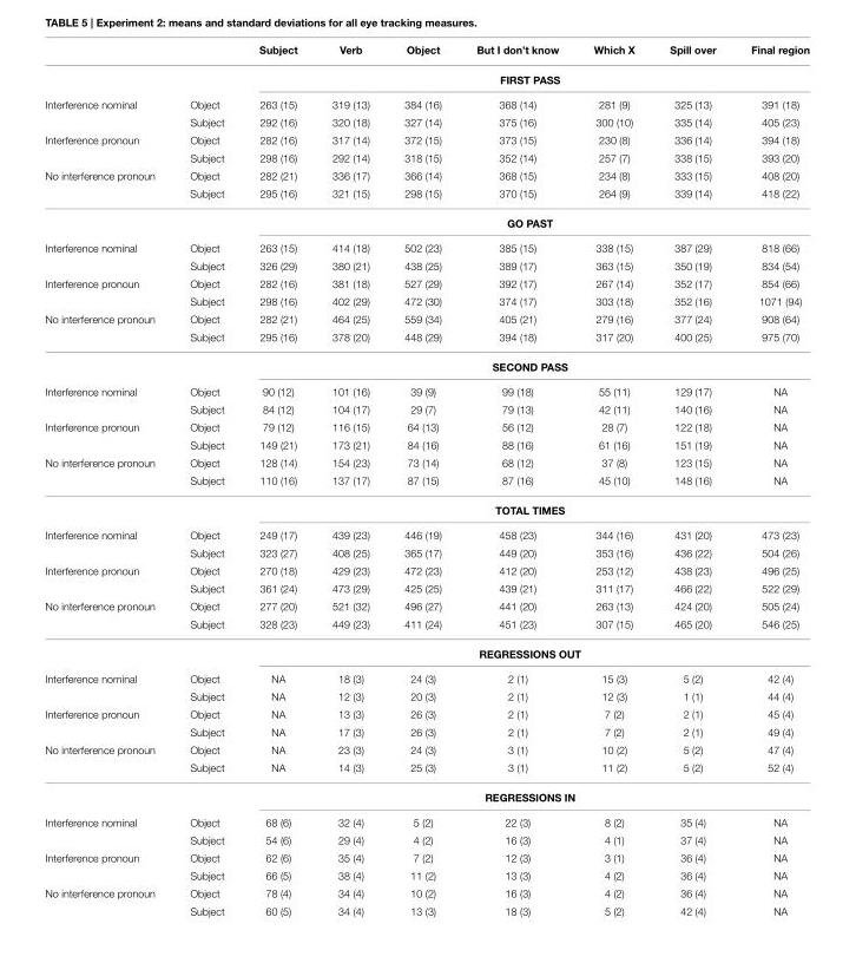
<table><thead><tr><td></td><td></td><td>Subject</td><td>Verb</td><td>Object</td><td>But I don’t know</td><td>Which X</td><td>Spill over</td><td>Final region</td></tr></thead><tbody><tr><td></td><td></td><td colspan="7">FIRST PASS</td></tr><tr><td rowspan="2">Interference nominal</td><td>Object</td><td>263 (15)</td><td>319 (13)</td><td>384 (16)</td><td>368 (14)</td><td>281 (9)</td><td>325 (13)</td><td>391 (18)</td></tr><tr><td>Subject</td><td>292 (16)</td><td>320 (18)</td><td>327 (14)</td><td>375 (16)</td><td>300 (10)</td><td>335 (14)</td><td>405 (23)</td></tr><tr><td rowspan="2">Interference pronoun</td><td>Object</td><td>282 (16)</td><td>317 (14)</td><td>372 (15)</td><td>373 (15)</td><td>230 (8)</td><td>336 (14)</td><td>394 (18)</td></tr><tr><td>Subject</td><td>298 (16)</td><td>292 (14)</td><td>318 (15)</td><td>352 (14)</td><td>257 (7)</td><td>338 (15)</td><td>393 (20)</td></tr><tr><td rowspan="3">No interference pronoun</td><td>Object</td><td>282 (21)</td><td>336 (17)</td><td>366 (14)</td><td>368 (15)</td><td>234 (8)</td><td>333 (15)</td><td>408 (20)</td></tr><tr><td>Subject</td><td>295 (16)</td><td>321 (15)</td><td>298 (15)</td><td>370 (15)</td><td>264 (9)</td><td>339 (14)</td><td>418 (22)</td></tr><tr><td></td><td colspan="7">GO PAST</td></tr><tr><td rowspan="2">Interference nominal</td><td>Object</td><td>263 (15)</td><td>414 (18)</td><td>502 (23)</td><td>385 (15)</td><td>338 (15)</td><td>387 (29)</td><td>818 (66)</td></tr><tr><td>Subject</td><td>326 (29)</td><td>380 (21)</td><td>438 (25)</td><td>389 (17)</td><td>363 (15)</td><td>350 (19)</td><td>834 (54)</td></tr><tr><td rowspan="2">Interference pronoun</td><td>Object</td><td>282 (16)</td><td>381 (18)</td><td>527 (29)</td><td>392 (17)</td><td>267 (14)</td><td>352 (17)</td><td>854 (66)</td></tr><tr><td>Subject</td><td>298 (16)</td><td>402 (29)</td><td>472 (30)</td><td>374 (17)</td><td>303 (18)</td><td>352 (16)</td><td>1071 (94)</td></tr><tr><td rowspan="3">No interference pronoun</td><td>Object</td><td>282 (21)</td><td>464 (25)</td><td>559 (34)</td><td>405 (21)</td><td>279 (16)</td><td>377 (24)</td><td>908 (64)</td></tr><tr><td>Subject</td><td>295 (16)</td><td>378 (20)</td><td>448 (29)</td><td>394 (18)</td><td>317 (20)</td><td>400 (25)</td><td>975 (70)</td></tr><tr><td></td><td colspan="7">SECOND PASS</td></tr><tr><td rowspan="2">Interference nominal</td><td>Object</td><td>90 (12)</td><td>101 (16)</td><td>39 (9)</td><td>99 (18)</td><td>55 (11)</td><td>129 (17)</td><td>NA</td></tr><tr><td>Subject</td><td>84 (12)</td><td>104 (17)</td><td>29 (7)</td><td>79 (13)</td><td>42 (11)</td><td>140 (16)</td><td>NA</td></tr><tr><td rowspan="2">Interference pronoun</td><td>Object</td><td>79 (12)</td><td>116 (15)</td><td>64 (13)</td><td>56 (12)</td><td>28 (7)</td><td>122 (18)</td><td>NA</td></tr><tr><td>Subject</td><td>149 (21)</td><td>173 (21)</td><td>84 (16)</td><td>88 (16)</td><td>61 (16)</td><td>151 (19)</td><td>NA</td></tr><tr><td rowspan="3">No interference pronoun</td><td>Object</td><td>128 (14)</td><td>154 (23)</td><td>73 (14)</td><td>68 (12)</td><td>37 (8)</td><td>123 (15)</td><td>NA</td></tr><tr><td>Subject</td><td>110 (16)</td><td>137 (17)</td><td>87 (15)</td><td>87 (16)</td><td>45 (10)</td><td>148 (16)</td><td>NA</td></tr><tr><td></td><td colspan="7">TOTAL TIMES</td></tr><tr><td rowspan="2">Interference nominal</td><td>Object</td><td>249 (17)</td><td>439 (23)</td><td>446 (19)</td><td>458 (23)</td><td>344 (16)</td><td>431 (20)</td><td>473 (23)</td></tr><tr><td>Subject</td><td>323 (27)</td><td>408 (25)</td><td>365 (17)</td><td>449 (20)</td><td>353 (16)</td><td>436 (22)</td><td>504 (26)</td></tr><tr><td rowspan="2">Interference pronoun</td><td>Object</td><td>270 (18)</td><td>429 (23)</td><td>472 (23)</td><td>412 (20)</td><td>253 (12)</td><td>438 (23)</td><td>496 (25)</td></tr><tr><td>Subject</td><td>361 (24)</td><td>473 (29)</td><td>425 (25)</td><td>439 (21)</td><td>311 (17)</td><td>466 (22)</td><td>522 (29)</td></tr><tr><td rowspan="3">No interference pronoun</td><td>Object</td><td>277 (20)</td><td>521 (32)</td><td>496 (27)</td><td>441 (20)</td><td>263 (13)</td><td>424 (20)</td><td>505 (24)</td></tr><tr><td>Subject</td><td>328 (23)</td><td>449 (23)</td><td>411 (24)</td><td>451 (23)</td><td>307 (15)</td><td>465 (20)</td><td>546 (25)</td></tr><tr><td></td><td colspan="7">REGRESSIONS OUT</td></tr><tr><td rowspan="2">Interference nominal</td><td>Object</td><td>NA</td><td>18 (3)</td><td>24 (3)</td><td>2 (1)</td><td>15 (3)</td><td>5 (2)</td><td>42 (4)</td></tr><tr><td>Subject</td><td>NA</td><td>12 (3)</td><td>20 (3)</td><td>2 (1)</td><td>12 (3)</td><td>1 (1)</td><td>44 (4)</td></tr><tr><td rowspan="2">Interference pronoun</td><td>Object</td><td>NA</td><td>13 (3)</td><td>26 (3)</td><td>2 (1)</td><td>7 (2)</td><td>2 (1)</td><td>45 (4)</td></tr><tr><td>Subject</td><td>NA</td><td>17 (3)</td><td>26 (3)</td><td>2 (1)</td><td>7 (2)</td><td>2 (1)</td><td>49 (4)</td></tr><tr><td rowspan="3">No interference pronoun</td><td>Object</td><td>NA</td><td>23 (3)</td><td>24 (3)</td><td>3 (1)</td><td>10 (2)</td><td>5 (2)</td><td>47 (4)</td></tr><tr><td>Subject</td><td>NA</td><td>14 (3)</td><td>25 (3)</td><td>3 (1)</td><td>11 (2)</td><td>5 (2)</td><td>52 (4)</td></tr><tr><td></td><td colspan="7">REGRESSIONS IN</td></tr><tr><td rowspan="2">Interference nominal</td><td>Object</td><td>68 (6)</td><td>32 (4)</td><td>5 (2)</td><td>22 (3)</td><td>8 (2)</td><td>35 (4)</td><td>NA</td></tr><tr><td>Subject</td><td>54 (6)</td><td>29 (4)</td><td>4 (2)</td><td>16 (3)</td><td>4 (1)</td><td>37 (4)</td><td>NA</td></tr><tr><td rowspan="2">Interference pronoun</td><td>Object</td><td>62 (6)</td><td>35 (4)</td><td>7 (2)</td><td>12 (3)</td><td>3 (1)</td><td>36 (4)</td><td>NA</td></tr><tr><td>Subject</td><td>66 (5)</td><td>38 (4)</td><td>11 (2)</td><td>13 (3)</td><td>4 (2)</td><td>36 (4)</td><td>NA</td></tr><tr><td rowspan="2">No interference pronoun</td><td>Object</td><td>78 (4)</td><td>34 (4)</td><td>10 (2)</td><td>16 (3)</td><td>4 (2)</td><td>36 (4)</td><td>NA</td></tr><tr><td>Subject</td><td>60 (5)</td><td>34 (4)</td><td>13 (3)</td><td>18 (3)</td><td>5 (2)</td><td>42 (4)</td><td>NA</td></tr></tbody></table>